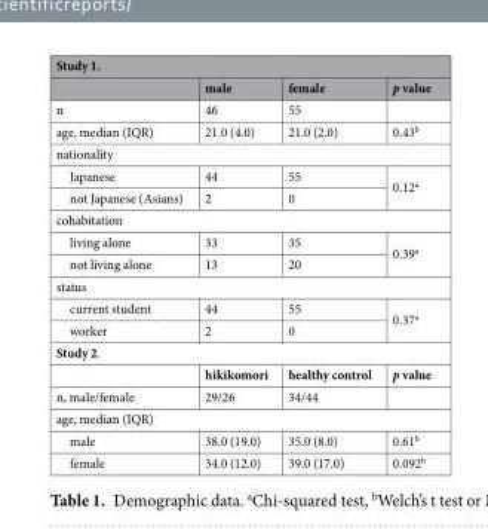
<table><thead><tr><td colspan="4">Study 1.</td></tr><tr><td></td><td>male</td><td>female</td><td>p value</td></tr></thead><tbody><tr><td>n</td><td>46</td><td>55</td><td></td></tr><tr><td>age, median (IQR)</td><td>21.0 (4.0)</td><td>21.0 (2.0)</td><td>0.43<sup>b</sup></td></tr><tr><td colspan="4">nationality</td></tr><tr><td>Japanese</td><td>44</td><td>55</td><td rowspan="2">0.12<sup>a</sup></td></tr><tr><td>not Japanese (Asians)</td><td>2</td><td>0</td></tr><tr><td colspan="4">cohabitation</td></tr><tr><td>living alone</td><td>33</td><td>35</td><td rowspan="2">0.39<sup>a</sup></td></tr><tr><td>not living alone</td><td>13</td><td>20</td></tr><tr><td colspan="4">status</td></tr><tr><td>current student</td><td>44</td><td>55</td><td rowspan="2">0.37<sup>a</sup></td></tr><tr><td>worker</td><td>2</td><td>0</td></tr><tr><td colspan="4">Study 2.</td></tr><tr><td></td><td>hikikomori</td><td>healthy control</td><td>p value</td></tr><tr><td>n, male/female</td><td>29/26</td><td>34/44</td><td></td></tr><tr><td colspan="4">age, median (IQR)</td></tr><tr><td>male</td><td>38.0 (19.0)</td><td>35.0 (8.0)</td><td>0.61<sup>b</sup></td></tr><tr><td>female</td><td>34.0 (12.0)</td><td>39.0 (17.0)</td><td>0.092<sup>b</sup></td></tr></tbody></table>